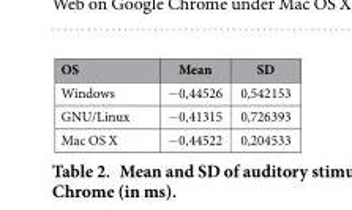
<table><thead><tr><td>OS</td><td>Mean</td><td>SD</td></tr></thead><tbody><tr><td>Windows</td><td>− 0,44526</td><td>0,542153</td></tr><tr><td>GNU/Linux</td><td>− 0,41315</td><td>0,726393</td></tr><tr><td>Mac OS X</td><td>− 0,44522</td><td>0,204533</td></tr></tbody></table>